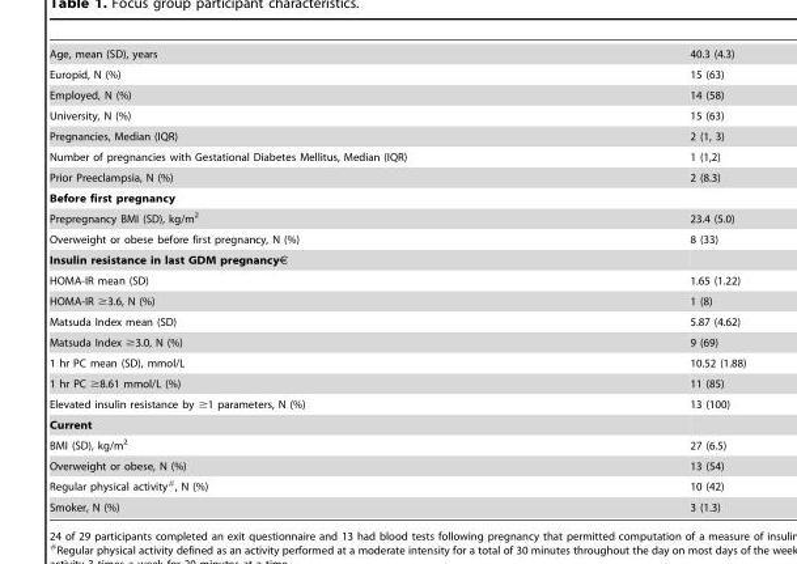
<table><tbody><tr><td>Age, mean (SD), years</td><td>40.3 (4.3)</td></tr><tr><td>Europid, N (%)</td><td>15 (63)</td></tr><tr><td>Employed, N (%)</td><td>14 (58)</td></tr><tr><td>University, N (%)</td><td>15 (63)</td></tr><tr><td>Pregnancies, Median (IQR)</td><td>2 (1, 3)</td></tr><tr><td>Number of pregnancies with Gestational Diabetes Mellitus, Median (IQR)</td><td>1 (1,2)</td></tr><tr><td>Prior Preeclampsia, N (%)</td><td>2 (8.3)</td></tr><tr><td colspan="2">Before first pregnancy</td></tr><tr><td>Prepregnancy BMI (SD), kg/m<sup>2</sup></td><td>23.4 (5.0)</td></tr><tr><td>Overweight or obese before first pregnancy, N (%)</td><td>8 (33)</td></tr><tr><td colspan="2">Insulin resistance in last GDM pregnancy€</td></tr><tr><td>HOMA-IR mean (SD)</td><td>1.65 (1.22)</td></tr><tr><td>HOMA-IR ≥3.6, N (%)</td><td>1 (8)</td></tr><tr><td>Matsuda Index mean (SD)</td><td>5.87 (4.62)</td></tr><tr><td>Matsuda Index ≥3.0, N (%)</td><td>9 (69)</td></tr><tr><td>1 hr PC mean (SD), mmol/L</td><td>10.52 (1.88)</td></tr><tr><td>1 hr PC ≥8.61 mmol/L (%)</td><td>11 (85)</td></tr><tr><td>Elevated insulin resistance by ≥1 parameters, N (%)</td><td>13 (100)</td></tr><tr><td colspan="2">Current</td></tr><tr><td>BMI (SD), kg/m<sup>2</sup></td><td>27 (6.5)</td></tr><tr><td>Overweight or obese, N (%)</td><td>13 (54)</td></tr><tr><td>Regular physical activity#, N (%)</td><td>10 (42)</td></tr><tr><td>Smoker, N (%)</td><td>3 (1.3)</td></tr></tbody></table>